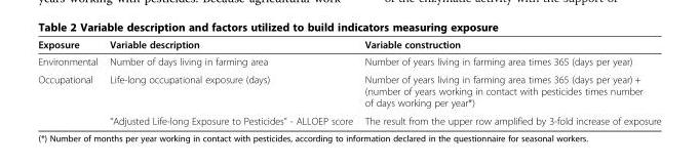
<table><thead><tr><td>Exposure</td><td>Variable description</td><td>Variable construction</td></tr></thead><tbody><tr><td>Environmental</td><td>Number of days living in farming area</td><td>Number of years living in farming area times 365 (days per year)</td></tr><tr><td rowspan="2">Occupational</td><td>Life-long occupational exposure (days)</td><td>Number of years living in farming area times 365 (days per year) + (number of years working in contact with pesticides times number of days working per year*)</td></tr><tr><td>“Adjusted Life-long Exposure to Pesticides” - ALLOEP score</td><td>The result from the upper row amplified by 3-fold increase of exposure</td></tr></tbody></table>